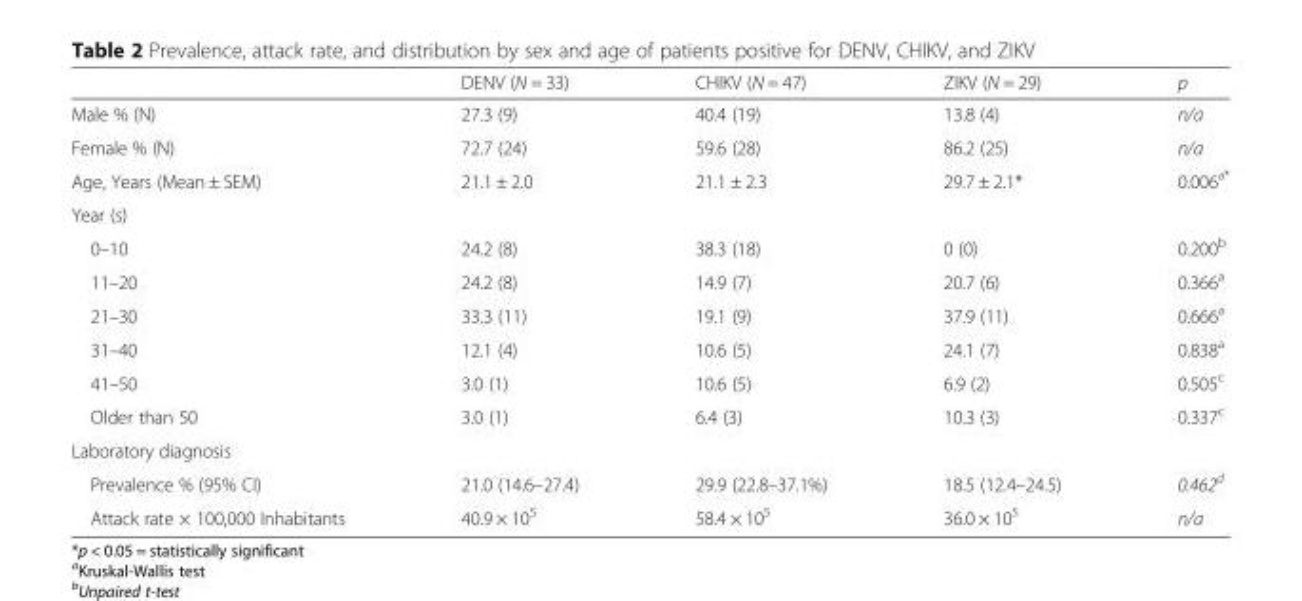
<table><thead><tr><td></td><td>DENV (N = 33)</td><td>CHIKV (N = 47)</td><td>ZIKV (N = 29)</td><td>p</td></tr></thead><tbody><tr><td>Male % (N)</td><td>27.3 (9)</td><td>40.4 (19)</td><td>13.8 (4)</td><td>n/a</td></tr><tr><td>Female % (N)</td><td>72.7 (24)</td><td>59.6 (28)</td><td>86.2 (25)</td><td>n/a</td></tr><tr><td>Age, Years (Mean ± SEM)</td><td>21.1 ± 2.0</td><td>21.1 ± 2.3</td><td>29.7 ± 2.1*</td><td>0.006<sup>a*</sup></td></tr><tr><td colspan="5">Year (s)</td></tr><tr><td>0–10</td><td>24.2 (8)</td><td>38.3 (18)</td><td>0 (0)</td><td>0.200<sup>b</sup></td></tr><tr><td>11–20</td><td>24.2 (8)</td><td>14.9 (7)</td><td>20.7 (6)</td><td>0.366<sup>a</sup></td></tr><tr><td>21–30</td><td>33.3 (11)</td><td>19.1 (9)</td><td>37.9 (11)</td><td>0.666<sup>a</sup></td></tr><tr><td>31–40</td><td>12.1 (4)</td><td>10.6 (5)</td><td>24.1 (7)</td><td>0.838<sup>a</sup></td></tr><tr><td>41–50</td><td>3.0 (1)</td><td>10.6 (5)</td><td>6.9 (2)</td><td>0.505<sup>c</sup></td></tr><tr><td>Older than 50</td><td>3.0 (1)</td><td>6.4 (3)</td><td>10.3 (3)</td><td>0.337<sup>c</sup></td></tr><tr><td colspan="5">Laboratory diagnosis</td></tr><tr><td>Prevalence % (95% CI)</td><td>21.0 (14.6–27.4)</td><td>29.9 (22.8–37.1%)</td><td>18.5 (12.4–24.5)</td><td>0.462<sup>d</sup></td></tr><tr><td>Attack rate × 100,000 Inhabitants</td><td>40.9 × 10<sup>5</sup></td><td>58.4 × 10<sup>5</sup></td><td>36.0 × 10<sup>5</sup></td><td>n/a</td></tr></tbody></table>